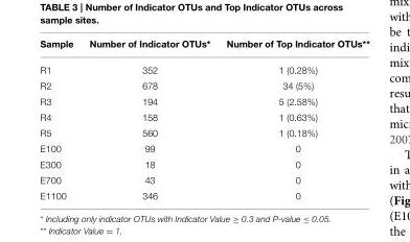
<table><thead><tr><td>Sample</td><td>Number of Indicator OTUs*</td><td>Number of Top Indicator OTUs**</td></tr></thead><tbody><tr><td>R1</td><td>352</td><td>1 (0.28%)</td></tr><tr><td>R2</td><td>678</td><td>34 (5%)</td></tr><tr><td>R3</td><td>194</td><td>5 (2.58%)</td></tr><tr><td>R4</td><td>158</td><td>1 (0.63%)</td></tr><tr><td>R5</td><td>560</td><td>1 (0.18%)</td></tr><tr><td>E100</td><td>99</td><td>0</td></tr><tr><td>E300</td><td>18</td><td>0</td></tr><tr><td>E700</td><td>43</td><td>0</td></tr><tr><td>E1100</td><td>346</td><td>0</td></tr></tbody></table>